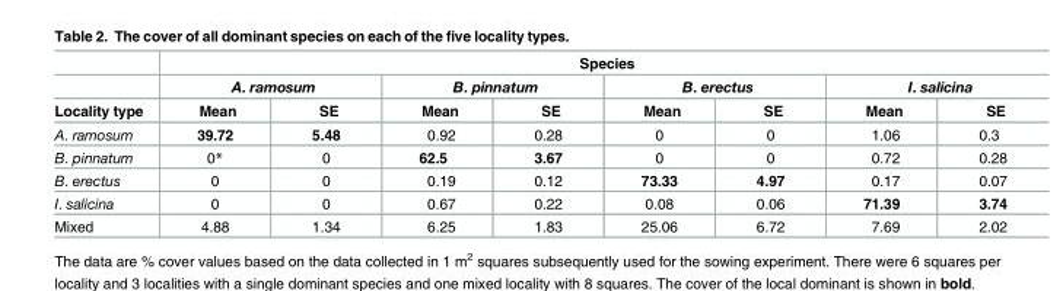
<table><thead><tr><td rowspan="3">Locality type</td><td colspan="8">Species</td></tr><tr><td colspan="2">A. ramosum</td><td colspan="2">B. pinnatum</td><td colspan="2">B. erectus</td><td colspan="2">I. salicina</td></tr><tr><td>Mean</td><td>SE</td><td>Mean</td><td>SE</td><td>Mean</td><td>SE</td><td>Mean</td><td>SE</td></tr></thead><tbody><tr><td>A. ramosum</td><td>39.72</td><td>5.48</td><td>0.92</td><td>0.28</td><td>0</td><td>0</td><td>1.06</td><td>0.3</td></tr><tr><td>B. pinnatum</td><td>0*</td><td>0</td><td>62.5</td><td>3.67</td><td>0</td><td>0</td><td>0.72</td><td>0.28</td></tr><tr><td>B. erectus</td><td>0</td><td>0</td><td>0.19</td><td>0.12</td><td>73.33</td><td>4.97</td><td>0.17</td><td>0.07</td></tr><tr><td>I. salicina</td><td>0</td><td>0</td><td>0.67</td><td>0.22</td><td>0.08</td><td>0.06</td><td>71.39</td><td>3.74</td></tr><tr><td>Mixed</td><td>4.88</td><td>1.34</td><td>6.25</td><td>1.83</td><td>25.06</td><td>6.72</td><td>7.69</td><td>2.02</td></tr></tbody></table>